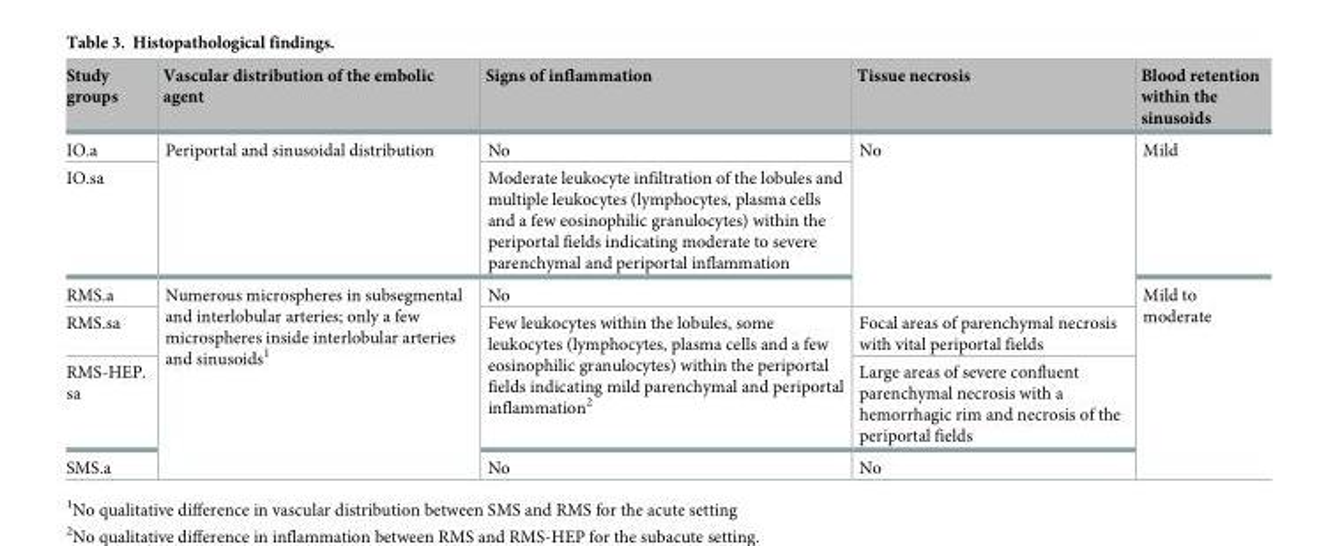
<table><thead><tr><td>Study groups</td><td>Vascular distribution of the embolic agent</td><td>Signs of inflammation</td><td>Tissue necrosis</td><td>Blood retention within the sinusoids</td></tr></thead><tbody><tr><td>IO.a</td><td rowspan="2">Periportal and sinusoidal distribution</td><td>No</td><td rowspan="3">No</td><td rowspan="2">Mild</td></tr><tr><td>IO.sa</td><td>Moderate leukocyte infiltration of the lobules and multiple leukocytes (lymphocytes, plasma cells and a few eosinophilic granulocytes) within the periportal fields indicating moderate to severe parenchymal and periportal inflammation</td></tr><tr><td>RMS.a</td><td rowspan="4">Numerous microspheres in subsegmental and interlobular arteries; only a few microspheres inside interlobular arteries and sinusoids<sup>1</sup></td><td>No</td><td rowspan="4">Mild to moderate</td></tr><tr><td>RMS.sa</td><td rowspan="2">Few leukocytes within the lobules, some leukocytes (lymphocytes, plasma cells and a few eosinophilic granulocytes) within the periportal fields indicating mild parenchymal and periportal inflammation<sup>2</sup></td><td>Focal areas of parenchymal necrosis with vital periportal fields</td></tr><tr><td>RMS-HEP. sa</td><td>Large areas of severe confluent parenchymal necrosis with a hemorrhagic rim and necrosis of the periportal fields</td></tr><tr><td>SMS.a</td><td>No</td><td>No</td></tr></tbody></table>